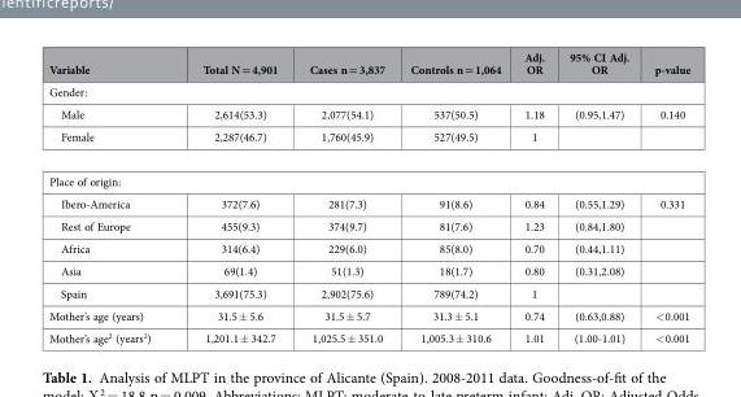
<table><thead><tr><td>Variable</td><td>Total N = 4,901</td><td>Cases n = 3,837</td><td>Controls n = 1,064</td><td>Adj. OR</td><td>95% CI Adj. OR</td><td>p-value</td></tr></thead><tbody><tr><td colspan="7">Gender:</td></tr><tr><td>Male</td><td>2,614(53.3)</td><td>2,077(54.1)</td><td>537(50.5)</td><td>1.18</td><td>(0.95,1.47)</td><td>0.140</td></tr><tr><td>Female</td><td>2,287(46.7)</td><td>1,760(45.9)</td><td>527(49.5)</td><td>1</td><td></td><td></td></tr><tr><td colspan="7">Place of origin:</td></tr><tr><td>Ibero-America</td><td>372(7.6)</td><td>281(7.3)</td><td>91(8.6)</td><td>0.84</td><td>(0.55,1.29)</td><td>0.331</td></tr><tr><td>Rest of Europe</td><td>455(9.3)</td><td>374(9.7)</td><td>81(7.6)</td><td>1.23</td><td>(0.84,1.80)</td><td></td></tr><tr><td>Africa</td><td>314(6.4)</td><td>229(6.0)</td><td>85(8.0)</td><td>0.70</td><td>(0.44,1.11)</td><td></td></tr><tr><td>Asia</td><td>69(1.4)</td><td>51(1.3)</td><td>18(1.7)</td><td>0.80</td><td>(0.31,2.08)</td><td></td></tr><tr><td>Spain</td><td>3,691(75.3)</td><td>2,902(75.6)</td><td>789(74.2)</td><td>1</td><td></td><td></td></tr><tr><td>Mother’s age (years)</td><td>31.5 ± 5.6</td><td>31.5 ± 5.7</td><td>31.3 ± 5.1</td><td>0.74</td><td>(0.63,0.88)</td><td>&lt; 0.001</td></tr><tr><td>Mother’s age<sup>2</sup> (years<sup>2</sup>)</td><td>1,201.1 ± 342.7</td><td>1,025.5 ± 351.0</td><td>1,005.3 ± 310.6</td><td>1.01</td><td>(1.00-1.01)</td><td>&lt; 0.001</td></tr></tbody></table>